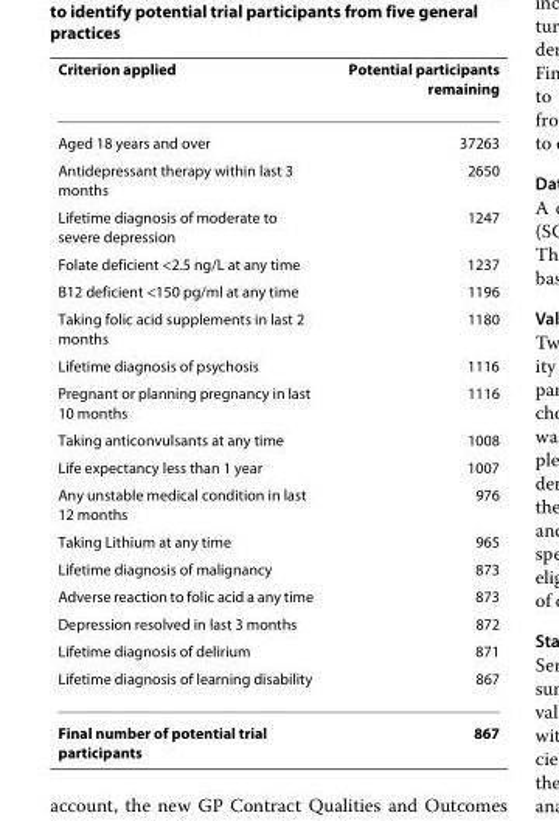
<table><thead><tr><td>Criterion applied</td><td>Potential participants remaining</td></tr></thead><tbody><tr><td>Aged 18 years and over</td><td>37263</td></tr><tr><td>Antidepressant therapy within last 3 months</td><td>2650</td></tr><tr><td>Lifetime diagnosis of moderate to severe depression</td><td>1247</td></tr><tr><td>Folate deficient &lt;2.5 ng/L at any time</td><td>1237</td></tr><tr><td>B12 deficient &lt;150 pg/ml at any time</td><td>1196</td></tr><tr><td>Taking folic acid supplements in last 2 months</td><td>1180</td></tr><tr><td>Lifetime diagnosis of psychosis</td><td>1116</td></tr><tr><td>Pregnant or planning pregnancy in last 10 months</td><td>1116</td></tr><tr><td>Taking anticonvulsants at any time</td><td>1008</td></tr><tr><td>Life expectancy less than 1 year</td><td>1007</td></tr><tr><td>Any unstable medical condition in last 12 months</td><td>976</td></tr><tr><td>Taking Lithium at any time</td><td>965</td></tr><tr><td>Lifetime diagnosis of malignancy</td><td>873</td></tr><tr><td>Adverse reaction to folic acid a any time</td><td>873</td></tr><tr><td>Depression resolved in last 3 months</td><td>872</td></tr><tr><td>Lifetime diagnosis of delirium</td><td>871</td></tr><tr><td>Lifetime diagnosis of learning disability</td><td>867</td></tr><tr><td>Final number of potential trial participants</td><td>867</td></tr></tbody></table>